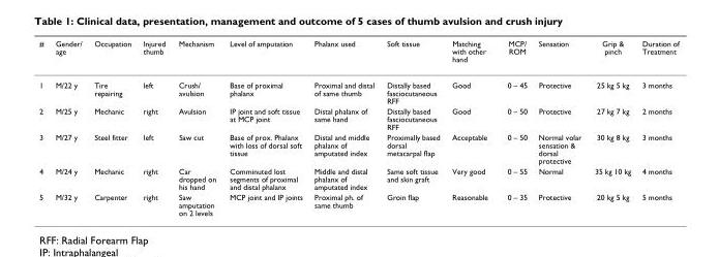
<table><thead><tr><td>#</td><td>Gender/ age</td><td>Occupation</td><td>Injured thumb</td><td>Mechanism</td><td>Level of amputation</td><td>Phalanx used</td><td>Soft tissue</td><td>Matching with other hand</td><td>MCP/ ROM</td><td>Sensation</td><td>Grip &amp; pinch</td><td>Duration of Treatment</td></tr></thead><tbody><tr><td>1</td><td>M/22 y</td><td>Tire repairing</td><td>left</td><td>Crush/ avulsion</td><td>Base of proximal phalanx</td><td>Proximal and distal of same thumb</td><td>Distally based fasciocutaneous RFF</td><td>Good</td><td>0 – 45</td><td>Protective</td><td>25 kg 5 kg</td><td>3 months</td></tr><tr><td>2</td><td>M/25 y</td><td>Mechanic</td><td>right</td><td>Avulsion</td><td>IP joint and soft tissue at MCP joint</td><td>Distal phalanx of same hand</td><td>Distally based fasciocutaneous RFF</td><td>Good</td><td>0 – 50</td><td>Protective</td><td>27 kg 7 kg</td><td>2 months</td></tr><tr><td>3</td><td>M/27 y</td><td>Steel fitter</td><td>left</td><td>Saw cut</td><td>Base of prox. Phalanx with loss of dorsal soft tissue</td><td>Distal and middle phalanx of amputated index</td><td>Proximally based dorsal metacarpal flap</td><td>Acceptable</td><td>0 – 50</td><td>Normal volar sensation &amp; dorsal protective</td><td>30 kg 8 kg</td><td>3 months</td></tr><tr><td>4</td><td>M/24 y</td><td>Mechanic</td><td>right</td><td>Car dropped on his hand</td><td>Comminuted lost segments of proximal and distal phalanx</td><td>Middle and distal phalanx of amputated index</td><td>Same soft tissue and skin graft</td><td>Very good</td><td>0 – 55</td><td>Normal</td><td>35 kg 10 kg</td><td>4 months</td></tr><tr><td>5</td><td>M/32 y</td><td>Carpenter</td><td>right</td><td>Saw amputation on 2 levels</td><td>MCP joint and IP joints</td><td>Proximal ph. of same thumb</td><td>Groin flap</td><td>Reasonable</td><td>0 – 35</td><td>Protective</td><td>20 kg 5 kg</td><td>5 months</td></tr></tbody></table>